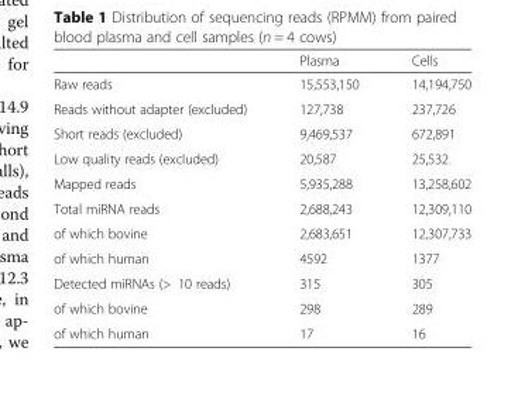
<table><thead><tr><td></td><td>Plasma</td><td>Cells</td></tr></thead><tbody><tr><td>Raw reads</td><td>15,553,150</td><td>14,194,750</td></tr><tr><td>Reads without adapter (excluded)</td><td>127,738</td><td>237,726</td></tr><tr><td>Short reads (excluded)</td><td>9,469,537</td><td>672,891</td></tr><tr><td>Low quality reads (excluded)</td><td>20,587</td><td>25,532</td></tr><tr><td>Mapped reads</td><td>5,935,288</td><td>13,258,602</td></tr><tr><td>Total miRNA reads</td><td>2,688,243</td><td>12,309,110</td></tr><tr><td>of which bovine</td><td>2,683,651</td><td>12,307,733</td></tr><tr><td>of which human</td><td>4592</td><td>1377</td></tr><tr><td>Detected miRNAs (&gt; 10 reads)</td><td>315</td><td>305</td></tr><tr><td>of which bovine</td><td>298</td><td>289</td></tr><tr><td>of which human</td><td>17</td><td>16</td></tr></tbody></table>